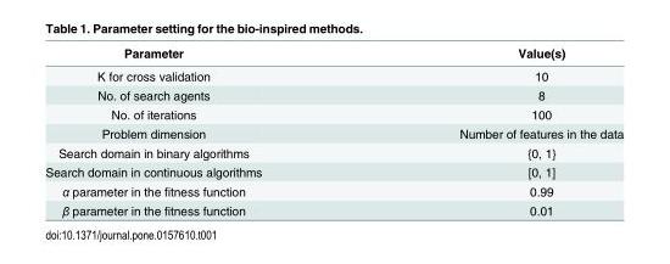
<table><thead><tr><td>Parameter</td><td>Value(s)</td></tr></thead><tbody><tr><td>K for cross validation</td><td>10</td></tr><tr><td>No. of search agents</td><td>8</td></tr><tr><td>No. of iterations</td><td>100</td></tr><tr><td>Problem dimension</td><td>Number of features in the data</td></tr><tr><td>Search domain in binary algorithms</td><td>{0, 1}</td></tr><tr><td>Search domain in continuous algorithms</td><td>[0, 1]</td></tr><tr><td>α parameter in the fitness function</td><td>0.99</td></tr><tr><td>β parameter in the fitness function</td><td>0.01</td></tr></tbody></table>